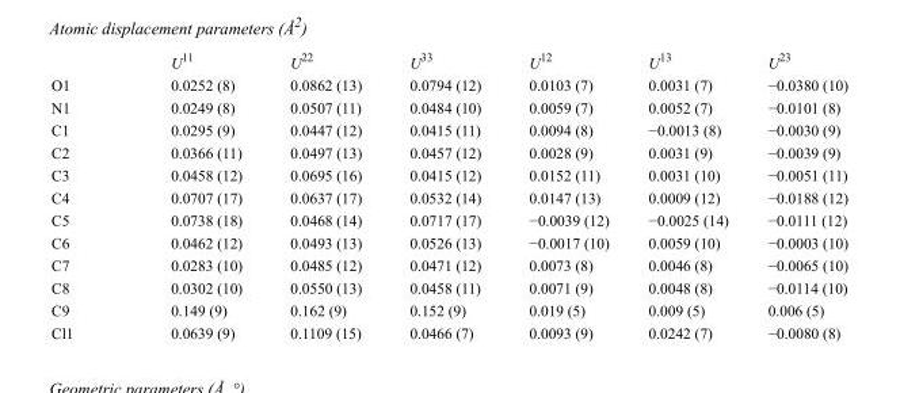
<table><thead><tr><td></td><td>U<sup>11</sup></td><td>U<sup>22</sup></td><td>U<sup>33</sup></td><td>U<sup>12</sup></td><td>U<sup>13</sup></td><td>U<sup>23</sup></td></tr></thead><tbody><tr><td>O1</td><td>0.0252 (8)</td><td>0.0862 (13)</td><td>0.0794 (12)</td><td>0.0103 (7)</td><td>0.0031 (7)</td><td>−0.0380 (10)</td></tr><tr><td>N1</td><td>0.0249 (8)</td><td>0.0507 (11)</td><td>0.0484 (10)</td><td>0.0059 (7)</td><td>0.0052 (7)</td><td>−0.0101 (8)</td></tr><tr><td>C1</td><td>0.0295 (9)</td><td>0.0447 (12)</td><td>0.0415 (11)</td><td>0.0094 (8)</td><td>−0.0013 (8)</td><td>−0.0030 (9)</td></tr><tr><td>C2</td><td>0.0366 (11)</td><td>0.0497 (13)</td><td>0.0457 (12)</td><td>0.0028 (9)</td><td>0.0031 (9)</td><td>−0.0039 (9)</td></tr><tr><td>C3</td><td>0.0458 (12)</td><td>0.0695 (16)</td><td>0.0415 (12)</td><td>0.0152 (11)</td><td>0.0031 (10)</td><td>−0.0051 (11)</td></tr><tr><td>C4</td><td>0.0707 (17)</td><td>0.0637 (17)</td><td>0.0532 (14)</td><td>0.0147 (13)</td><td>0.0009 (12)</td><td>−0.0188 (12)</td></tr><tr><td>C5</td><td>0.0738 (18)</td><td>0.0468 (14)</td><td>0.0717 (17)</td><td>−0.0039 (12)</td><td>−0.0025 (14)</td><td>−0.0111 (12)</td></tr><tr><td>C6</td><td>0.0462 (12)</td><td>0.0493 (13)</td><td>0.0526 (13)</td><td>−0.0017 (10)</td><td>0.0059 (10)</td><td>−0.0003 (10)</td></tr><tr><td>C7</td><td>0.0283 (10)</td><td>0.0485 (12)</td><td>0.0471 (12)</td><td>0.0073 (8)</td><td>0.0046 (8)</td><td>−0.0065 (10)</td></tr><tr><td>C8</td><td>0.0302 (10)</td><td>0.0550 (13)</td><td>0.0458 (11)</td><td>0.0071 (9)</td><td>0.0048 (8)</td><td>−0.0114 (10)</td></tr><tr><td>C9</td><td>0.149 (9)</td><td>0.162 (9)</td><td>0.152 (9)</td><td>0.019 (5)</td><td>0.009 (5)</td><td>0.006 (5)</td></tr><tr><td>Cl1</td><td>0.0639 (9)</td><td>0.1109 (15)</td><td>0.0466 (7)</td><td>0.0093 (9)</td><td>0.0242 (7)</td><td>−0.0080 (8)</td></tr></tbody></table>